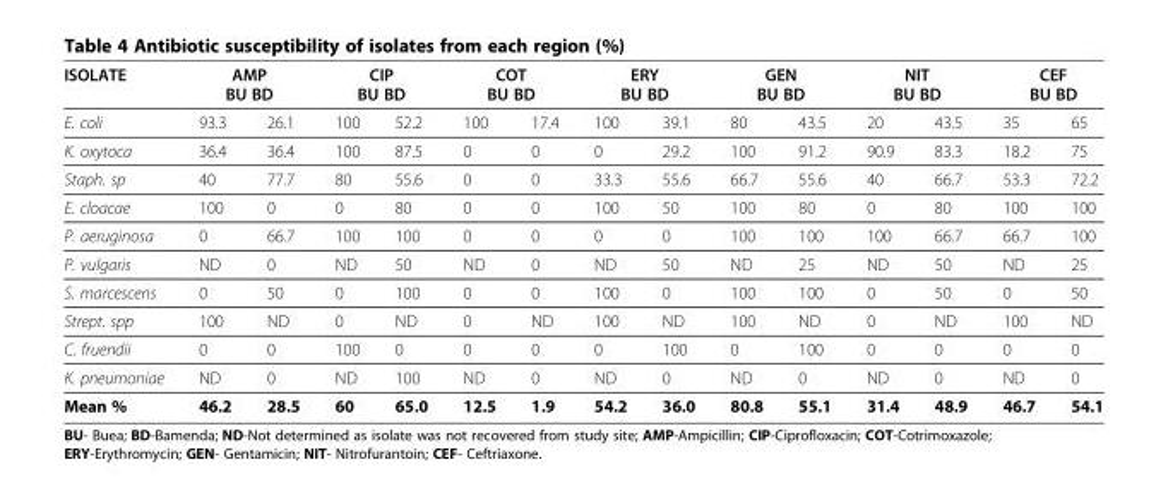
<table><thead><tr><td rowspan="2">ISOLATE E. coli</td><td colspan="2">AMP BU BD</td><td colspan="2">CIP BU BD</td><td colspan="2">COT BU BD</td><td colspan="2">ERY BU BD</td><td colspan="2">GEN BU BD</td><td colspan="2">NIT BU BD</td><td colspan="2">CEF BU BD</td></tr><tr><td>93.3</td><td>26.1</td><td>100</td><td>52.2</td><td>100</td><td>17.4</td><td>100</td><td>39.1</td><td>80</td><td>43.5</td><td>20</td><td>43.5</td><td>35</td><td>65</td></tr></thead><tbody><tr><td>K. oxytoca</td><td>36.4</td><td>36.4</td><td>100</td><td>87.5</td><td>0</td><td>0</td><td>0</td><td>29.2</td><td>100</td><td>91.2</td><td>90.9</td><td>83.3</td><td>18.2</td><td>75</td></tr><tr><td>Staph. sp</td><td>40</td><td>77.7</td><td>80</td><td>55.6</td><td>0</td><td>0</td><td>33.3</td><td>55.6</td><td>66.7</td><td>55.6</td><td>40</td><td>66.7</td><td>53.3</td><td>72.2</td></tr><tr><td>E. cloacae</td><td>100</td><td>0</td><td>0</td><td>80</td><td>0</td><td>0</td><td>100</td><td>50</td><td>100</td><td>80</td><td>0</td><td>80</td><td>100</td><td>100</td></tr><tr><td>P. aeruginosa</td><td>0</td><td>66.7</td><td>100</td><td>100</td><td>0</td><td>0</td><td>0</td><td>0</td><td>100</td><td>100</td><td>100</td><td>66.7</td><td>66.7</td><td>100</td></tr><tr><td>P. vulgaris</td><td>ND</td><td>0</td><td>ND</td><td>50</td><td>ND</td><td>0</td><td>ND</td><td>50</td><td>ND</td><td>25</td><td>ND</td><td>50</td><td>ND</td><td>25</td></tr><tr><td>S. marcescens</td><td>0</td><td>50</td><td>0</td><td>100</td><td>0</td><td>0</td><td>100</td><td>0</td><td>100</td><td>100</td><td>0</td><td>50</td><td>0</td><td>50</td></tr><tr><td>Strept. spp</td><td>100</td><td>ND</td><td>0</td><td>ND</td><td>0</td><td>ND</td><td>100</td><td>ND</td><td>100</td><td>ND</td><td>0</td><td>ND</td><td>100</td><td>ND</td></tr><tr><td>C. fruendii</td><td>0</td><td>0</td><td>100</td><td>0</td><td>0</td><td>0</td><td>0</td><td>100</td><td>0</td><td>100</td><td>0</td><td>0</td><td>0</td><td>0</td></tr><tr><td>K. pneumoniae</td><td>ND</td><td>0</td><td>ND</td><td>100</td><td>ND</td><td>0</td><td>ND</td><td>0</td><td>ND</td><td>0</td><td>ND</td><td>0</td><td>ND</td><td>0</td></tr><tr><td>Mean %</td><td>46.2</td><td>28.5</td><td>60</td><td>65.0</td><td>12.5</td><td>1.9</td><td>54.2</td><td>36.0</td><td>80.8</td><td>55.1</td><td>31.4</td><td>48.9</td><td>46.7</td><td>54.1</td></tr></tbody></table>